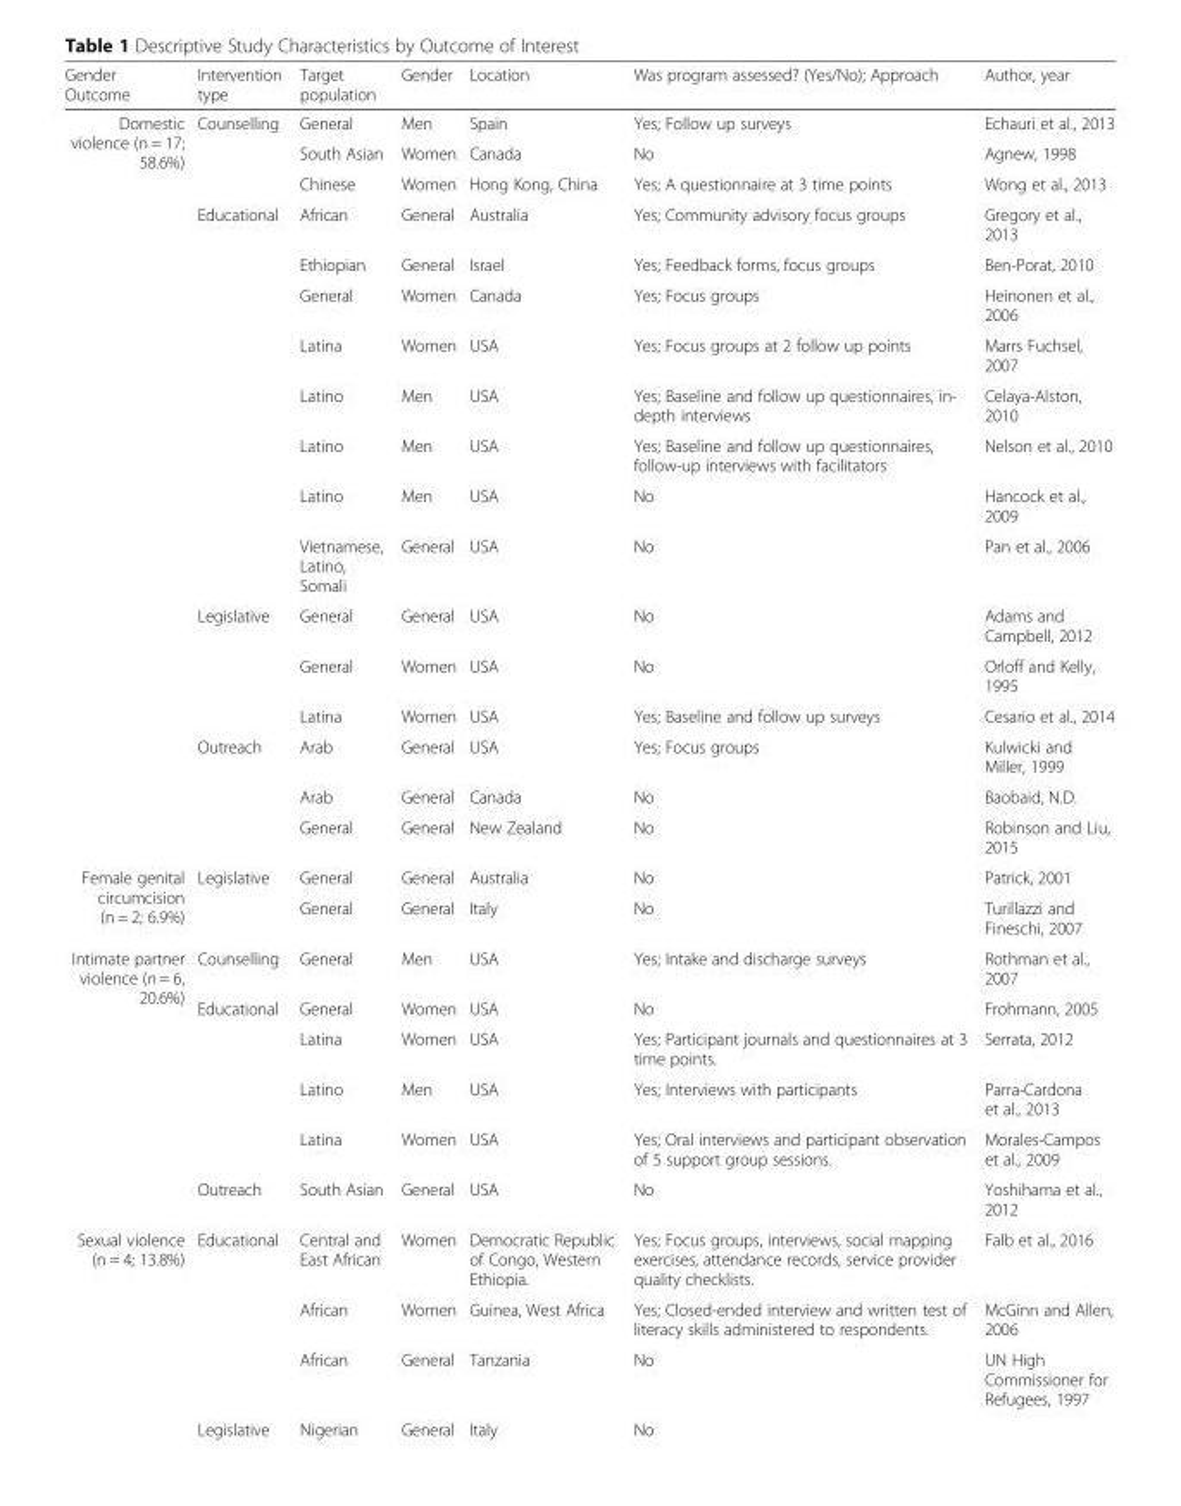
<table><thead><tr><td>Gender Outcome</td><td>Intervention type</td><td>Target population</td><td>Gender</td><td>Location</td><td>Was program assessed? (Yes/No); Approach</td><td>Author, year</td></tr></thead><tbody><tr><td rowspan="17">Domestic violence (n = 17; 58.6%)</td><td rowspan="3">Counselling</td><td>General</td><td>Men</td><td>Spain</td><td>Yes; Follow up surveys</td><td>Echauri et al., 2013</td></tr><tr><td>South Asian</td><td>Women</td><td>Canada</td><td>No</td><td>Agnew, 1998</td></tr><tr><td>Chinese</td><td>Women</td><td>Hong Kong, China</td><td>Yes; A questionnaire at 3 time points</td><td>Wong et al., 2013</td></tr><tr><td rowspan="8">Educational</td><td>African</td><td>General</td><td>Australia</td><td>Yes; Community advisory focus groups</td><td>Gregory et al., 2013</td></tr><tr><td>Ethiopian</td><td>General</td><td>Israel</td><td>Yes; Feedback forms, focus groups</td><td>Ben-Porat, 2010</td></tr><tr><td>General</td><td>Women</td><td>Canada</td><td>Yes; Focus groups</td><td>Heinonen et al., 2006</td></tr><tr><td>Latina</td><td>Women</td><td>USA</td><td>Yes; Focus groups at 2 follow up points</td><td>Marrs Fuchsel, 2007</td></tr><tr><td>Latino</td><td>Men</td><td>USA</td><td>Yes; Baseline and follow up questionnaires, in- depth interviews</td><td>Celaya-Alston, 2010</td></tr><tr><td>Latino</td><td>Men</td><td>USA</td><td>Yes; Baseline and follow up questionnaires, follow-up interviews with facilitators</td><td>Nelson et al., 2010</td></tr><tr><td>Latino</td><td>Men</td><td>USA</td><td>No</td><td>Hancock et al., 2009</td></tr><tr><td>Vietnamese, Latino, Somali</td><td>General</td><td>USA</td><td>No</td><td>Pan et al., 2006</td></tr><tr><td rowspan="3">Legislative</td><td>General</td><td>General</td><td>USA</td><td>No</td><td>Adams and Campbell, 2012</td></tr><tr><td>General</td><td>Women</td><td>USA</td><td>No</td><td>Orloff and Kelly, 1995</td></tr><tr><td>Latina</td><td>Women</td><td>USA</td><td>Yes; Baseline and follow up surveys</td><td>Cesario et al., 2014</td></tr><tr><td rowspan="3">Outreach</td><td>Arab</td><td>General</td><td>USA</td><td>Yes; Focus groups</td><td>Kulwicki and Miller, 1999</td></tr><tr><td>Arab</td><td>General</td><td>Canada</td><td>No</td><td>Baobaid, N.D.</td></tr><tr><td>General</td><td>General</td><td>New Zealand</td><td>No</td><td>Robinson and Liu, 2015</td></tr><tr><td rowspan="2">Female genital circumcision (n = 2; 6.9%)</td><td rowspan="2">Legislative</td><td>General</td><td>General</td><td>Australia</td><td>No</td><td>Patrick, 2001</td></tr><tr><td>General</td><td>General</td><td>Italy</td><td>No</td><td>Turillazzi and Fineschi, 2007</td></tr><tr><td rowspan="6">Intimate partner violence (n = 6, 20.6%)</td><td>Counselling</td><td>General</td><td>Men</td><td>USA</td><td>Yes; Intake and discharge surveys</td><td>Rothman et al., 2007</td></tr><tr><td rowspan="4">Educational</td><td>General</td><td>Women</td><td>USA</td><td>No</td><td>Frohmann, 2005</td></tr><tr><td>Latina</td><td>Women</td><td>USA</td><td>Yes; Participant journals and questionnaires at 3 time points.</td><td>Serrata, 2012</td></tr><tr><td>Latino</td><td>Men</td><td>USA</td><td>Yes; Interviews with participants</td><td>Parra-Cardona et al., 2013</td></tr><tr><td>Latina</td><td>Women</td><td>USA</td><td>Yes; Oral interviews and participant observation of 5 support group sessions.</td><td>Morales-Campos et al., 2009</td></tr><tr><td>Outreach</td><td>South Asian</td><td>General</td><td>USA</td><td>No</td><td>Yoshihama et al., 2012</td></tr><tr><td rowspan="4">Sexual violence (n = 4; 13.8%)</td><td rowspan="3">Educational</td><td>Central and East African</td><td>Women</td><td>Democratic Republic of Congo, Western Ethiopia.</td><td>Yes; Focus groups, interviews, social mapping exercises, attendance records, service provider quality checklists.</td><td>Falb et al., 2016</td></tr><tr><td>African</td><td>Women</td><td>Guinea, West Africa</td><td>Yes; Closed-ended interview and written test of literacy skills administered to respondents.</td><td>McGinn and Allen, 2006</td></tr><tr><td>African</td><td>General</td><td>Tanzania</td><td>No</td><td>UN High Commissioner for Refugees, 1997</td></tr><tr><td>Legislative</td><td>Nigerian</td><td>General</td><td>Italy</td><td>No</td><td></td></tr></tbody></table>